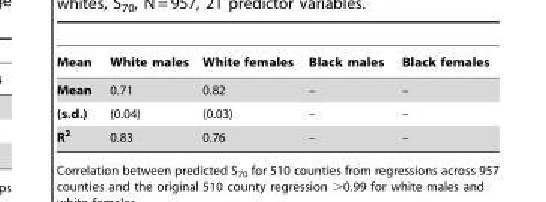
<table><thead><tr><td>Mean</td><td>White males</td><td>White females</td><td>Black males</td><td>Black females</td></tr></thead><tbody><tr><td>Mean</td><td>0.71</td><td>0.82</td><td>–</td><td>–</td></tr><tr><td>(s.d.)</td><td>(0.04)</td><td>(0.03)</td><td>–</td><td>–</td></tr><tr><td>R<sup>2</sup></td><td>0.83</td><td>0.76</td><td>–</td><td>–</td></tr></tbody></table>